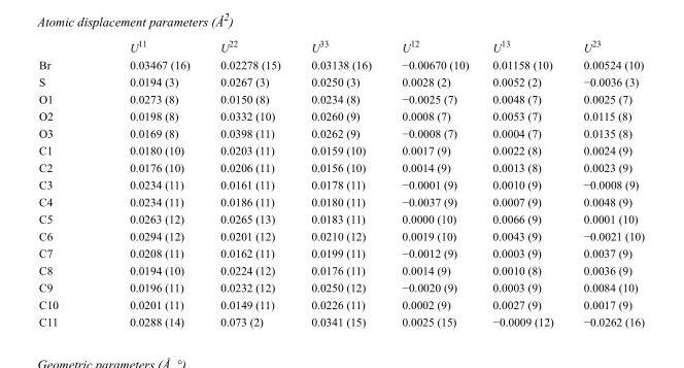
<table><thead><tr><td></td><td>U<sup>11</sup></td><td>U<sup>22</sup></td><td>U<sup>33</sup></td><td>U<sup>12</sup></td><td>U<sup>13</sup></td><td>U<sup>23</sup></td></tr></thead><tbody><tr><td>Br</td><td>0.03467 (16)</td><td>0.02278 (15)</td><td>0.03138 (16)</td><td>−0.00670 (10)</td><td>0.01158 (10)</td><td>0.00524 (10)</td></tr><tr><td>S</td><td>0.0194 (3)</td><td>0.0267 (3)</td><td>0.0250 (3)</td><td>0.0028 (2)</td><td>0.0052 (2)</td><td>−0.0036 (3)</td></tr><tr><td>O1</td><td>0.0273 (8)</td><td>0.0150 (8)</td><td>0.0234 (8)</td><td>−0.0025 (7)</td><td>0.0048 (7)</td><td>0.0025 (7)</td></tr><tr><td>O2</td><td>0.0198 (8)</td><td>0.0332 (10)</td><td>0.0260 (9)</td><td>0.0008 (7)</td><td>0.0053 (7)</td><td>0.0115 (8)</td></tr><tr><td>O3</td><td>0.0169 (8)</td><td>0.0398 (11)</td><td>0.0262 (9)</td><td>−0.0008 (7)</td><td>0.0004 (7)</td><td>0.0135 (8)</td></tr><tr><td>C1</td><td>0.0180 (10)</td><td>0.0203 (11)</td><td>0.0159 (10)</td><td>0.0017 (9)</td><td>0.0022 (8)</td><td>0.0024 (9)</td></tr><tr><td>C2</td><td>0.0176 (10)</td><td>0.0206 (11)</td><td>0.0156 (10)</td><td>0.0014 (9)</td><td>0.0013 (8)</td><td>0.0023 (9)</td></tr><tr><td>C3</td><td>0.0234 (11)</td><td>0.0161 (11)</td><td>0.0178 (11)</td><td>−0.0001 (9)</td><td>0.0010 (9)</td><td>−0.0008 (9)</td></tr><tr><td>C4</td><td>0.0234 (11)</td><td>0.0186 (11)</td><td>0.0180 (11)</td><td>−0.0037 (9)</td><td>0.0007 (9)</td><td>0.0048 (9)</td></tr><tr><td>C5</td><td>0.0263 (12)</td><td>0.0265 (13)</td><td>0.0183 (11)</td><td>0.0000 (10)</td><td>0.0066 (9)</td><td>0.0001 (10)</td></tr><tr><td>C6</td><td>0.0294 (12)</td><td>0.0201 (12)</td><td>0.0210 (12)</td><td>0.0019 (10)</td><td>0.0043 (9)</td><td>−0.0021 (10)</td></tr><tr><td>C7</td><td>0.0208 (11)</td><td>0.0162 (11)</td><td>0.0199 (11)</td><td>−0.0012 (9)</td><td>0.0003 (9)</td><td>0.0037 (9)</td></tr><tr><td>C8</td><td>0.0194 (10)</td><td>0.0224 (12)</td><td>0.0176 (11)</td><td>0.0014 (9)</td><td>0.0010 (8)</td><td>0.0036 (9)</td></tr><tr><td>C9</td><td>0.0196 (11)</td><td>0.0232 (12)</td><td>0.0250 (12)</td><td>−0.0020 (9)</td><td>0.0003 (9)</td><td>0.0084 (10)</td></tr><tr><td>C10</td><td>0.0201 (11)</td><td>0.0149 (11)</td><td>0.0226 (11)</td><td>0.0002 (9)</td><td>0.0027 (9)</td><td>0.0017 (9)</td></tr><tr><td>C11</td><td>0.0288 (14)</td><td>0.073 (2)</td><td>0.0341 (15)</td><td>0.0025 (15)</td><td>−0.0009 (12)</td><td>−0.0262 (16)</td></tr></tbody></table>